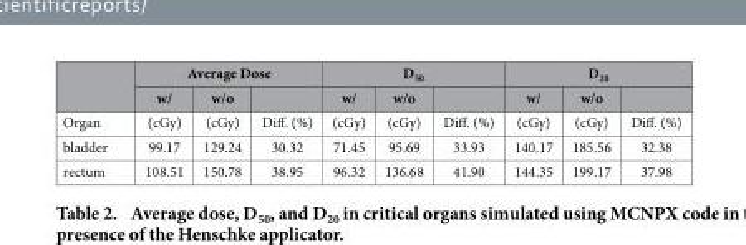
<table><thead><tr><td rowspan="2"></td><td colspan="3">Average Dose</td><td colspan="3">D<sub>50</sub></td><td colspan="3">D<sub>20</sub></td></tr><tr><td>w/</td><td>w/o</td><td></td><td>w/</td><td>w/o</td><td></td><td>w/</td><td>w/o</td><td></td></tr></thead><tbody><tr><td>Organ</td><td>(cGy)</td><td>(cGy)</td><td>Diff. (%)</td><td>(cGy)</td><td>(cGy)</td><td>Diff. (%)</td><td>(cGy)</td><td>(cGy)</td><td>Diff. (%)</td></tr><tr><td>bladder</td><td>99.17</td><td>129.24</td><td>30.32</td><td>71.45</td><td>95.69</td><td>33.93</td><td>140.17</td><td>185.56</td><td>32.38</td></tr><tr><td>rectum</td><td>108.51</td><td>150.78</td><td>38.95</td><td>96.32</td><td>136.68</td><td>41.90</td><td>144.35</td><td>199.17</td><td>37.98</td></tr></tbody></table>